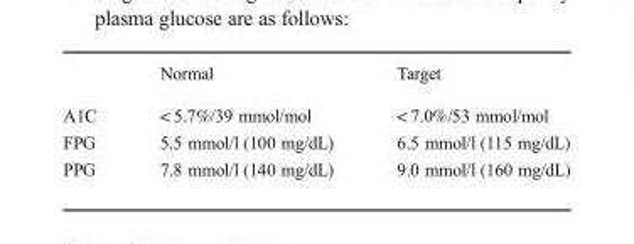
<table><thead><tr><td></td><td>Normal</td><td>Target</td></tr></thead><tbody><tr><td>A1C</td><td>&lt; 5.7%/39 mmol/mol</td><td>&lt; 7.0%/53 mmol/mol</td></tr><tr><td>FPG</td><td>5.5 mmol/l (100 mg/dL)</td><td>6.5 mmol/l (115 mg/dL)</td></tr><tr><td>PPG</td><td>7.8 mmol/l (140 mg/dL)</td><td>9.0 mmol/l (160 mg/dL)</td></tr></tbody></table>